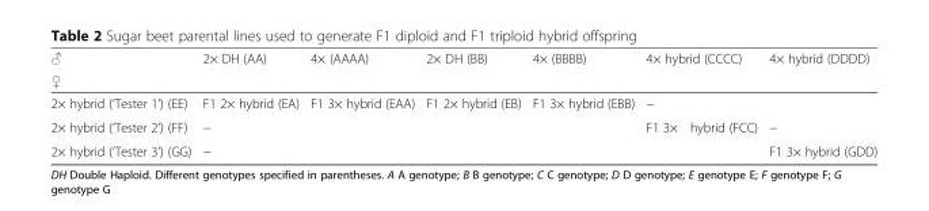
<table><thead><tr><td rowspan="2">♂ ♀</td><td rowspan="2">2× DH (AA)</td><td rowspan="2">4× (AAAA)</td><td rowspan="2">2× DH (BB)</td><td rowspan="2">4× (BBBB)</td><td rowspan="2">4× hybrid (CCCC)</td><td rowspan="2">4× hybrid (DDDD)</td></tr><tr></tr></thead><tbody><tr><td>2× hybrid (‘Tester 1’) (EE)</td><td>F1 2× hybrid (EA)</td><td>F1 3× hybrid (EAA)</td><td>F1 2× hybrid (EB)</td><td>F1 3× hybrid (EBB)</td><td colspan="2">−</td></tr><tr><td>2× hybrid (‘Tester 2’) (FF)</td><td colspan="4">−</td><td>F1 3× hybrid (FCC)</td><td>−</td></tr><tr><td>2× hybrid (‘Tester 3’) (GG)</td><td colspan="5">−</td><td>F1 3× hybrid (GDD)</td></tr></tbody></table>